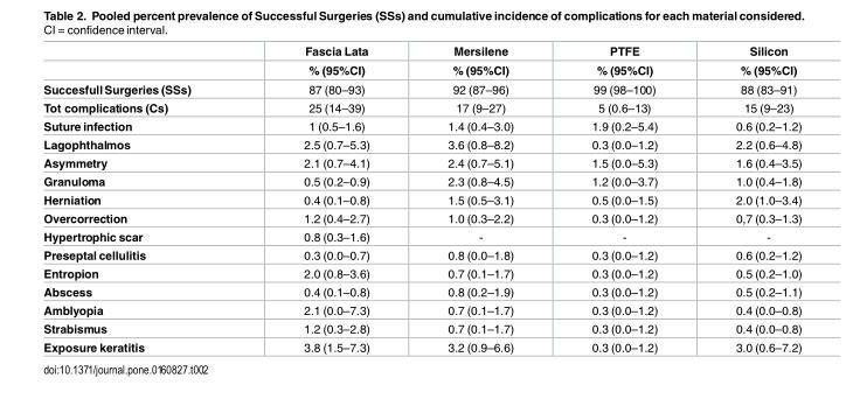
<table><thead><tr><td rowspan="2"></td><td rowspan="2">Fascia Lata % (95%CI)</td><td rowspan="2">Mersilene % (95%CI)</td><td rowspan="2">PTFE % (95%CI)</td><td rowspan="2">Silicon % (95%CI)</td></tr><tr></tr></thead><tbody><tr><td>Succesfull Surgeries (SSs)</td><td>87 (80–93)</td><td>92 (87–96)</td><td>99 (98–100)</td><td>88 (83–91)</td></tr><tr><td>Tot complications (Cs)</td><td>25 (14–39)</td><td>17 (9–27)</td><td>5 (0.6–13)</td><td>15 (9–23)</td></tr><tr><td>Suture infection</td><td>1 (0.5–1.6)</td><td>1.4 (0.4–3.0)</td><td>1.9 (0.2–5.4)</td><td>0.6 (0.2–1.2)</td></tr><tr><td>Lagophthalmos</td><td>2.5 (0.7–5.3)</td><td>3.6 (0.8–8.2)</td><td>0.3 (0.0–1.2)</td><td>2.2 (0.6–4.8)</td></tr><tr><td>Asymmetry</td><td>2.1 (0.7–4.1)</td><td>2.4 (0.7–5.1)</td><td>1.5 (0.0–5.3)</td><td>1.6 (0.4–3.5)</td></tr><tr><td>Granuloma</td><td>0.5 (0.2–0.9)</td><td>2.3 (0.8–4.5)</td><td>1.2 (0.0–3.7)</td><td>1.0 (0.4–1.8)</td></tr><tr><td>Herniation</td><td>0.4 (0.1–0.8)</td><td>1.5 (0.5–3.1)</td><td>0.5 (0.0–1.5)</td><td>2.0 (1.0–3.4)</td></tr><tr><td>Overcorrection</td><td>1.2 (0.4–2.7)</td><td>1.0 (0.3–2.2)</td><td>0.3 (0.0–1.2)</td><td>0,7 (0.3–1.3)</td></tr><tr><td>Hypertrophic scar</td><td>0.8 (0.3–1.6)</td><td>-</td><td>-</td><td>-</td></tr><tr><td>Preseptal cellulitis</td><td>0.3 (0.0–0.7)</td><td>0.8 (0.0–1.8)</td><td>0.3 (0.0–1.2)</td><td>0.6 (0.2–1.2)</td></tr><tr><td>Entropion</td><td>2.0 (0.8–3.6)</td><td>0.7 (0.1–1.7)</td><td>0.3 (0.0–1.2)</td><td>0.5 (0.2–1.0)</td></tr><tr><td>Abscess</td><td>0.4 (0.1–0.8)</td><td>0.8 (0.2–1.9)</td><td>0.3 (0.0–1.2)</td><td>0.5 (0.2–1.1)</td></tr><tr><td>Amblyopia</td><td>2.1 (0.0–7.3)</td><td>0.7 (0.1–1.7)</td><td>0.3 (0.0–1.2)</td><td>0.4 (0.0–0.8)</td></tr><tr><td>Strabismus</td><td>1.2 (0.3–2.8)</td><td>0.7 (0.1–1.7)</td><td>0.3 (0.0–1.2)</td><td>0.4 (0.0–0.8)</td></tr><tr><td>Exposure keratitis</td><td>3.8 (1.5–7.3)</td><td>3.2 (0.9–6.6)</td><td>0.3 (0.0–1.2)</td><td>3.0 (0.6–7.2)</td></tr></tbody></table>